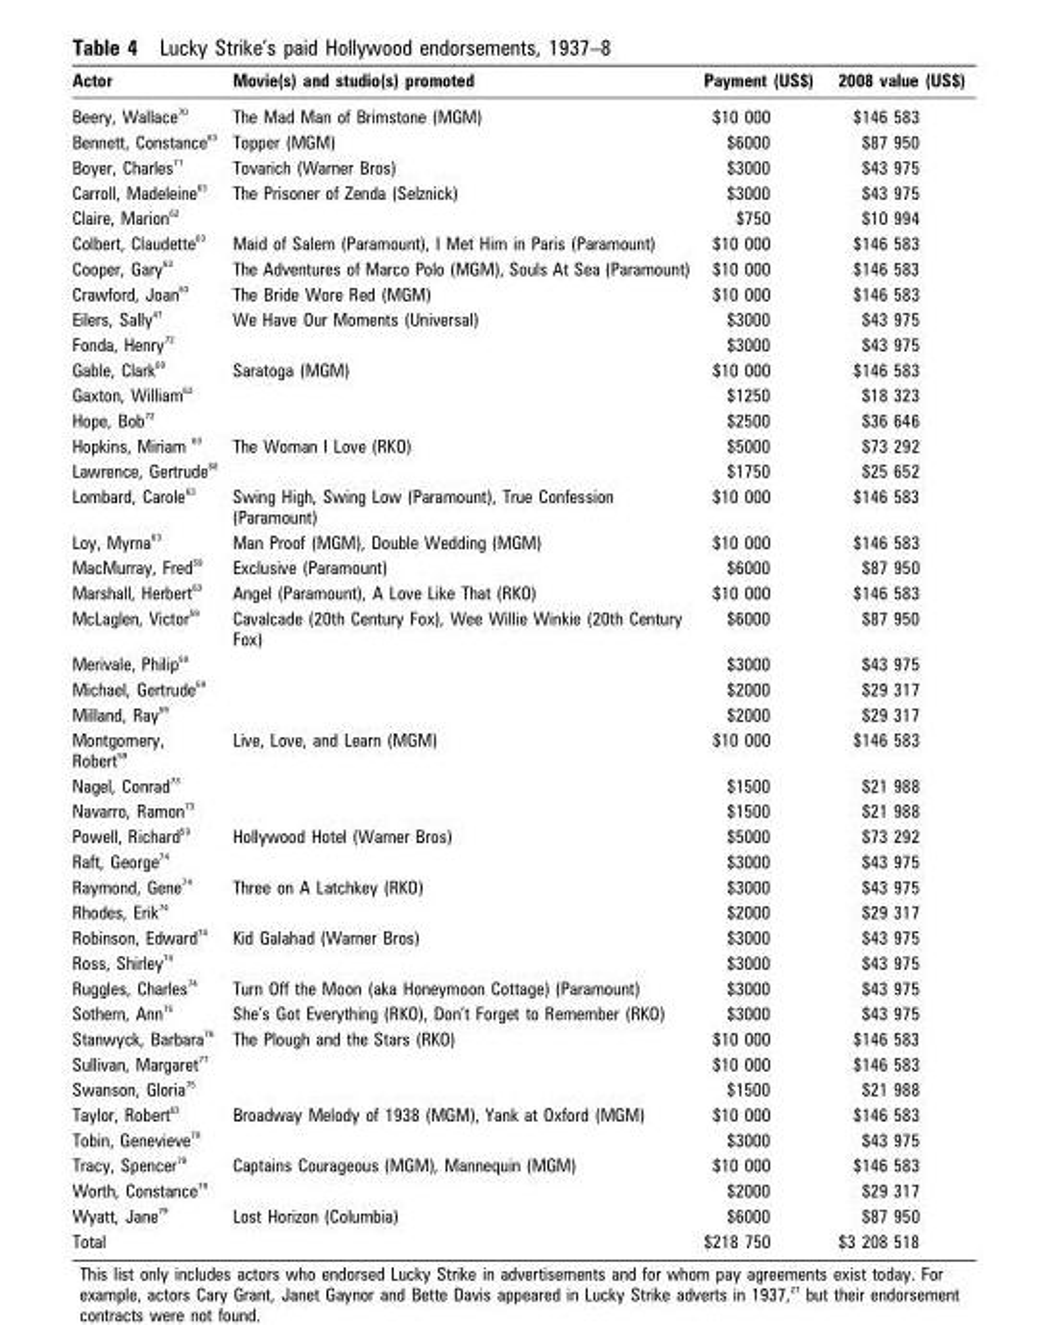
<table><thead><tr><td>Actor</td><td>Movie(s) and studio(s) promoted</td><td>Payment (US$)</td><td>2008 value (US$)</td></tr></thead><tbody><tr><td>Beery, Wallace <sup>70</sup></td><td>The Mad Man of Brimstone (MGM)</td><td>$10 000</td><td>$146 583</td></tr><tr><td>Bennett, Constance <sup>63</sup></td><td>Topper (MGM)</td><td>$6000</td><td>$87 950</td></tr><tr><td>Boyer, Charles <sup>71</sup></td><td>Tovarich (Warner Bros)</td><td>$3000</td><td>$43 975</td></tr><tr><td>Carroll, Madeleine <sup>63</sup></td><td>The Prisoner of Zenda (Selznick)</td><td>$3000</td><td>$43 975</td></tr><tr><td>Claire, Marion <sup>62</sup></td><td></td><td>$750</td><td>$10 994</td></tr><tr><td>Colbert, Claudette <sup>63</sup></td><td>Maid of Salem (Paramount), I Met Him in Paris (Paramount)</td><td>$10 000</td><td>$146 583</td></tr><tr><td>Cooper, Gary <sup>63</sup></td><td>The Adventures of Marco Polo (MGM), Souls At Sea (Paramount)</td><td>$10 000</td><td>$146 583</td></tr><tr><td>Crawford, Joan <sup>63</sup></td><td>The Bride Wore Red (MGM)</td><td>$10 000</td><td>$146 583</td></tr><tr><td>Eilers, Sally <sup>47</sup></td><td>We Have Our Moments (Universal)</td><td>$3000</td><td>$43 975</td></tr><tr><td>Fonda, Henry <sup>72</sup></td><td></td><td>$3000</td><td>$43 975</td></tr><tr><td>Gable, Clark <sup>69</sup></td><td>Saratoga (MGM)</td><td>$10 000</td><td>$146 583</td></tr><tr><td>Gaxton, William <sup>62</sup></td><td></td><td>$1250</td><td>$18 323</td></tr><tr><td>Hope, Bob <sup>72</sup></td><td></td><td>$2500</td><td>$36 646</td></tr><tr><td>Hopkins, Miriam 63</td><td>The Woman I Love (RKO)</td><td>$5000</td><td>$73 292</td></tr><tr><td>Lawrence, Gertrude <sup>68</sup></td><td></td><td>$1750</td><td>$25 652</td></tr><tr><td>Lombard, Carole <sup>63</sup></td><td>Swing High, Swing Low (Paramount), True Confession (Paramount)</td><td>$10 000</td><td>$146 583</td></tr><tr><td>Loy, Myrna <sup>63</sup></td><td>Man Proof (MGM), Double Wedding (MGM)</td><td>$10 000</td><td>$146 583</td></tr><tr><td>MacMurray, Fred <sup>59</sup></td><td>Exclusive (Paramount)</td><td>$6000</td><td>$87 950</td></tr><tr><td>Marshall, Herbert <sup>63</sup></td><td>Angel (Paramount), A Love Like That (RKO)</td><td>$10 000</td><td>$146 583</td></tr><tr><td>McLaglen, Victor <sup>59</sup></td><td>Cavalcade (20th Century Fox), Wee Willie Winkie (20th Century Fox)</td><td>$6000</td><td>$87 950</td></tr><tr><td>Merivale, Philip <sup>59</sup></td><td></td><td>$3000</td><td>$43 975</td></tr><tr><td>Michael, Gertrude <sup>59</sup></td><td></td><td>$2000</td><td>$29 317</td></tr><tr><td>Milland, Ray <sup>59</sup></td><td></td><td>$2000</td><td>$29 317</td></tr><tr><td>Montgomery, Robert <sup>59</sup></td><td>Live, Love, and Learn (MGM)</td><td>$10 000</td><td>$146 583</td></tr><tr><td>Nagel, Conrad <sup>73</sup></td><td></td><td>$1500</td><td>$21 988</td></tr><tr><td>Navarro, Ramon <sup>73</sup></td><td></td><td>$1500</td><td>$21 988</td></tr><tr><td>Powell, Richard <sup>59</sup></td><td>Hollywood Hotel (Warner Bros)</td><td>$5000</td><td>$73 292</td></tr><tr><td>Raft, George <sup>74</sup></td><td></td><td>$3000</td><td>$43 975</td></tr><tr><td>Raymond, Gene <sup>74</sup></td><td>Three on A Latchkey (RKO)</td><td>$3000</td><td>$43 975</td></tr><tr><td>Rhodes, Erik <sup>74</sup></td><td></td><td>$2000</td><td>$29 317</td></tr><tr><td>Robinson, Edward <sup>74</sup></td><td>Kid Galahad (Warner Bros)</td><td>$3000</td><td>$43 975</td></tr><tr><td>Ross, Shirley <sup>74</sup></td><td></td><td>$3000</td><td>$43 975</td></tr><tr><td>Ruggles, Charles <sup>74</sup></td><td>Turn Off the Moon (aka Honeymoon Cottage) (Paramount)</td><td>$3000</td><td>$43 975</td></tr><tr><td>Sothern, Ann <sup>75</sup></td><td>She’s Got Everything (RKO), Don’t Forget to Remember (RKO)</td><td>$3000</td><td>$43 975</td></tr><tr><td>Stanwyck, Barbara <sup>76</sup></td><td>The Plough and the Stars (RKO)</td><td>$10 000</td><td>$146 583</td></tr><tr><td>Sullivan, Margaret <sup>77</sup></td><td></td><td>$10 000</td><td>$146 583</td></tr><tr><td>Swanson, Gloria <sup>75</sup></td><td></td><td>$1500</td><td>$21 988</td></tr><tr><td>Taylor, Robert <sup>63</sup></td><td>Broadway Melody of 1938 (MGM), Yank at Oxford (MGM)</td><td>$10 000</td><td>$146 583</td></tr><tr><td>Tobin, Genevieve <sup>78</sup></td><td></td><td>$3000</td><td>$43 975</td></tr><tr><td>Tracy, Spencer <sup>78</sup></td><td>Captains Courageous (MGM), Mannequin (MGM)</td><td>$10 000</td><td>$146 583</td></tr><tr><td>Worth, Constance <sup>79</sup></td><td></td><td>$2000</td><td>$29 317</td></tr><tr><td>Wyatt, Jane <sup>79</sup></td><td>Lost Horizon (Columbia)</td><td>$6000</td><td>$87 950</td></tr><tr><td>Total</td><td></td><td>$218 750</td><td>$3 208 518</td></tr></tbody></table>